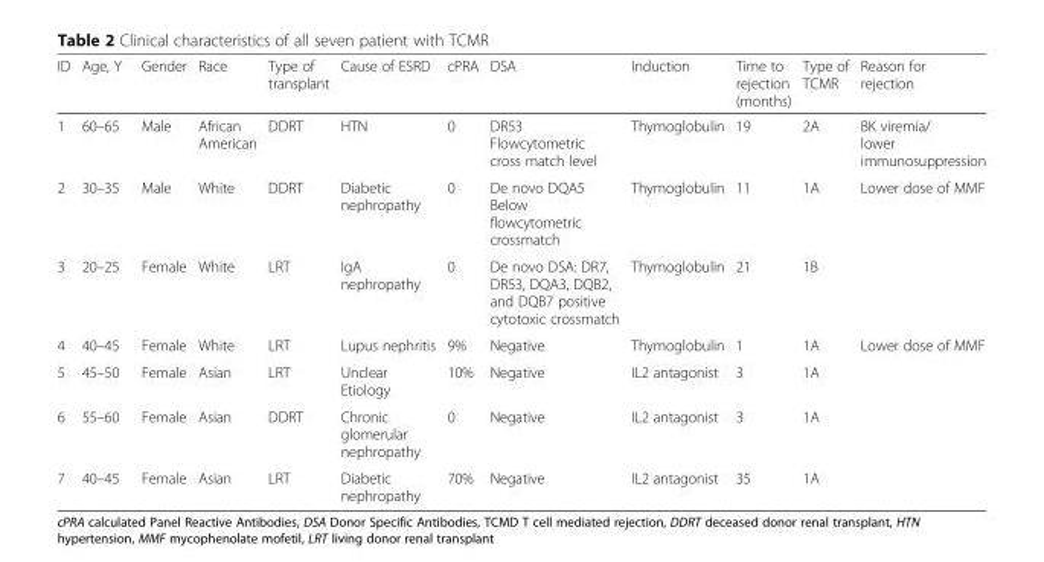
<table><thead><tr><td>ID</td><td>Age, Y</td><td>Gender</td><td>Race</td><td>Type of transplant</td><td>Cause of ESRD</td><td>cPRA</td><td>DSA</td><td>Induction</td><td>Time to rejection (months)</td><td>Type of TCMR</td><td>Reason for rejection</td></tr></thead><tbody><tr><td>1</td><td>60–65</td><td>Male</td><td>African American</td><td>DDRT</td><td>HTN</td><td>0</td><td>DR53 Flowcytometric cross match level</td><td>Thymoglobulin</td><td>19</td><td>2A</td><td>BK viremia/ lower immunosuppression</td></tr><tr><td>2</td><td>30–35</td><td>Male</td><td>White</td><td>DDRT</td><td>Diabetic nephropathy</td><td>0</td><td>De novo DQA5 Below flowcytometric crossmatch</td><td>Thymoglobulin</td><td>11</td><td>1A</td><td>Lower dose of MMF</td></tr><tr><td>3</td><td>20–25</td><td>Female</td><td>White</td><td>LRT</td><td>IgA nephropathy</td><td>0</td><td>De novo DSA: DR7, DR53, DQA3, DQB2, and DQB7 positive cytotoxic crossmatch</td><td>Thymoglobulin</td><td>21</td><td>1B</td><td></td></tr><tr><td>4</td><td>40–45</td><td>Female</td><td>White</td><td>LRT</td><td>Lupus nephritis</td><td>9%</td><td>Negative</td><td>Thymoglobulin</td><td>1</td><td>1A</td><td>Lower dose of MMF</td></tr><tr><td>5</td><td>45–50</td><td>Female</td><td>Asian</td><td>LRT</td><td>Unclear Etiology</td><td>10%</td><td>Negative</td><td>IL2 antagonist</td><td>3</td><td>1A</td><td></td></tr><tr><td>6</td><td>55–60</td><td>Female</td><td>Asian</td><td>DDRT</td><td>Chronic glomerular nephropathy</td><td>0</td><td>Negative</td><td>IL2 antagonist</td><td>3</td><td>1A</td><td></td></tr><tr><td>7</td><td>40–45</td><td>Female</td><td>Asian</td><td>LRT</td><td>Diabetic nephropathy</td><td>70%</td><td>Negative</td><td>IL2 antagonist</td><td>35</td><td>1A</td><td></td></tr></tbody></table>